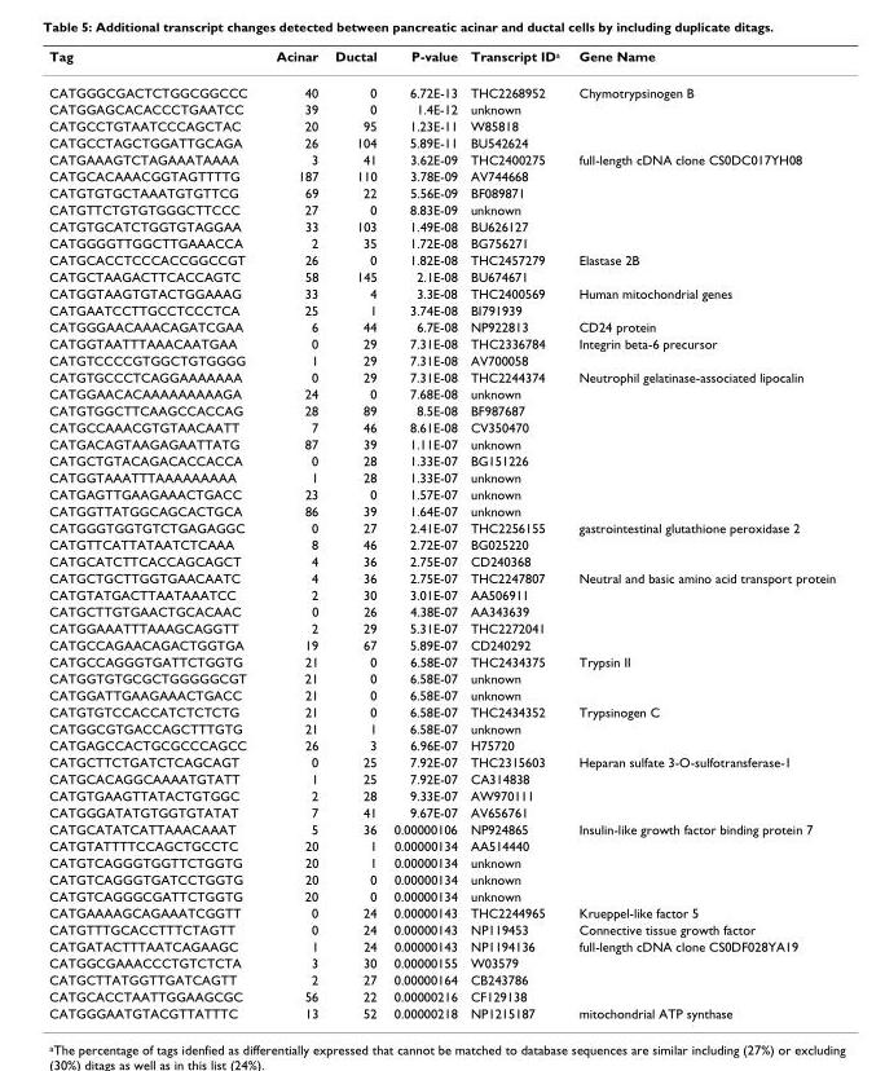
<table><thead><tr><td>Tag</td><td>Acinar</td><td>Ductal</td><td>P-value</td><td>Transcript ID<sup>a</sup></td><td>Gene Name</td></tr></thead><tbody><tr><td>CATGGGCGACTCTGGCGGCCC</td><td>40</td><td>0</td><td>6.72E-13</td><td>THC2268952</td><td>Chymotrypsinogen B</td></tr><tr><td>CATGGAGCACACCCTGAATCC</td><td>39</td><td>0</td><td>1.4E-12</td><td>unknown</td><td></td></tr><tr><td>CATGCCTGTAATCCCAGCTAC</td><td>20</td><td>95</td><td>1.23E-11</td><td>W85818</td><td></td></tr><tr><td>CATGCCTAGCTGGATTGCAGA</td><td>26</td><td>104</td><td>5.89E-11</td><td>BU542624</td><td></td></tr><tr><td>CATGAAAGTCTAGAAATAAAA</td><td>3</td><td>41</td><td>3.62E-09</td><td>THC2400275</td><td>full-length cDNA clone CS0DC017YH08</td></tr><tr><td>CATGCACAAACGGTAGTTTTG</td><td>187</td><td>110</td><td>3.78E-09</td><td>AV744668</td><td></td></tr><tr><td>CATGTGTGCTAAATGTGTTCG</td><td>69</td><td>22</td><td>5.56E-09</td><td>BF089871</td><td></td></tr><tr><td>CATGTTCTGTGTGGGCTTCCC</td><td>27</td><td>0</td><td>8.83E-09</td><td>unknown</td><td></td></tr><tr><td>CATGTGCATCTGGTGTAGGAA</td><td>33</td><td>103</td><td>1.49E-08</td><td>BU626127</td><td></td></tr><tr><td>CATGGGGTTGGCTTGAAACCA</td><td>2</td><td>35</td><td>1.72E-08</td><td>BG756271</td><td></td></tr><tr><td>CATGCACCTCCCACCGGCCGT</td><td>26</td><td>0</td><td>1.82E-08</td><td>THC2457279</td><td>Elastase 2B</td></tr><tr><td>CATGCTAAGACTTCACCAGTC</td><td>58</td><td>145</td><td>2.1E-08</td><td>BU674671</td><td></td></tr><tr><td>CATGGTAAGTGTACTGGAAAG</td><td>33</td><td>4</td><td>3.3E-08</td><td>THC2400569</td><td>Human mitochondrial genes</td></tr><tr><td>CATGAATCCTTGCCTCCCTCA</td><td>25</td><td>1</td><td>3.74E-08</td><td>BI791939</td><td></td></tr><tr><td>CATGGGAACAAACAGATCGAA</td><td>6</td><td>44</td><td>6.7E-08</td><td>NP922813</td><td>CD24 protein</td></tr><tr><td>CATGGTAATTTAAACAATGAA</td><td>0</td><td>29</td><td>7.31E-08</td><td>THC2336784</td><td>Integrin beta-6 precursor</td></tr><tr><td>CATGTCCCCGTGGCTGTGGGG</td><td>1</td><td>29</td><td>7.31E-08</td><td>AV700058</td><td></td></tr><tr><td>CATGTGCCCTCAGGAAAAAAA</td><td>0</td><td>29</td><td>7.31E-08</td><td>THC2244374</td><td>Neutrophil gelatinase-associated lipocalin</td></tr><tr><td>CATGGAACACAAAAAAAAAGA</td><td>24</td><td>0</td><td>7.68E-08</td><td>unknown</td><td></td></tr><tr><td>CATGTGGCTTCAAGCCACCAG</td><td>28</td><td>89</td><td>8.5E-08</td><td>BF987687</td><td></td></tr><tr><td>CATGCCAAACGTGTAACAATT</td><td>7</td><td>46</td><td>8.61E-08</td><td>CV350470</td><td></td></tr><tr><td>CATGACAGTAAGAGAATTATG</td><td>87</td><td>39</td><td>1.11E-07</td><td>unknown</td><td></td></tr><tr><td>CATGCTGTACAGACACCACCA</td><td>0</td><td>28</td><td>1.33E-07</td><td>BG151226</td><td></td></tr><tr><td>CATGGTAAATTTAAAAAAAAA</td><td>1</td><td>28</td><td>1.33E-07</td><td>unknown</td><td></td></tr><tr><td>CATGAGTTGAAGAAACTGACC</td><td>23</td><td>0</td><td>1.57E-07</td><td>unknown</td><td></td></tr><tr><td>CATGGTTATGGCAGCACTGCA</td><td>86</td><td>39</td><td>1.64E-07</td><td>unknown</td><td></td></tr><tr><td>CATGGGTGGTGTCTGAGAGGC</td><td>0</td><td>27</td><td>2.41E-07</td><td>THC2256155</td><td>gastrointestinal glutathione peroxidase 2</td></tr><tr><td>CATGTTCATTATAATCTCAAA</td><td>8</td><td>46</td><td>2.72E-07</td><td>BG025220</td><td></td></tr><tr><td>CATGCATCTTCACCAGCAGCT</td><td>4</td><td>36</td><td>2.75E-07</td><td>CD240368</td><td></td></tr><tr><td>CATGCTGCTTGGTGAACAATC</td><td>4</td><td>36</td><td>2.75E-07</td><td>THC2247807</td><td>Neutral and basic amino acid transport protein</td></tr><tr><td>CATGTATGACTTAATAAATCC</td><td>2</td><td>30</td><td>3.01E-07</td><td>AA506911</td><td></td></tr><tr><td>CATGCTTGTGAACTGCACAAC</td><td>0</td><td>26</td><td>4.38E-07</td><td>AA343639</td><td></td></tr><tr><td>CATGGAAATTTAAAGCAGGTT</td><td>2</td><td>29</td><td>5.31E-07</td><td>THC2272041</td><td></td></tr><tr><td>CATGCCAGAACAGACTGGTGA</td><td>19</td><td>67</td><td>5.89E-07</td><td>CD240292</td><td></td></tr><tr><td>CATGCCAGGGTGATTCTGGTG</td><td>21</td><td>0</td><td>6.58E-07</td><td>THC2434375</td><td>Trypsin II</td></tr><tr><td>CATGGTGTGCGCTGGGGGCGT</td><td>21</td><td>0</td><td>6.58E-07</td><td>unknown</td><td></td></tr><tr><td>CATGGATTGAAGAAACTGACC</td><td>21</td><td>0</td><td>6.58E-07</td><td>unknown</td><td></td></tr><tr><td>CATGTGTCCACCATCTCTCTG</td><td>21</td><td>0</td><td>6.58E-07</td><td>THC2434352</td><td>Trypsinogen C</td></tr><tr><td>CATGGCGTGACCAGCTTTGTG</td><td>21</td><td>1</td><td>6.58E-07</td><td>unknown</td><td></td></tr><tr><td>CATGAGCCACTGCGCCCAGCC</td><td>26</td><td>3</td><td>6.96E-07</td><td>H75720</td><td></td></tr><tr><td>CATGCTTCTGATCTCAGCAGT</td><td>0</td><td>25</td><td>7.92E-07</td><td>THC2315603</td><td>Heparan sulfate 3-O-sulfotransferase-1</td></tr><tr><td>CATGCACAGGCAAAATGTATT</td><td>1</td><td>25</td><td>7.92E-07</td><td>CA314838</td><td></td></tr><tr><td>CATGTGAAGTTATACTGTGGC</td><td>2</td><td>28</td><td>9.33E-07</td><td>AW970111</td><td></td></tr><tr><td>CATGGGATATGTGGTGTATAT</td><td>7</td><td>41</td><td>9.67E-07</td><td>AV656761</td><td></td></tr><tr><td>CATGCATATCATTAAACAAAT</td><td>5</td><td>36</td><td>0.00000106</td><td>NP924865</td><td>Insulin-like growth factor binding protein 7</td></tr><tr><td>CATGTATTTTCCAGCTGCCTC</td><td>20</td><td>1</td><td>0.00000134</td><td>AA514440</td><td></td></tr><tr><td>CATGTCAGGGTGGTTCTGGTG</td><td>20</td><td>1</td><td>0.00000134</td><td>unknown</td><td></td></tr><tr><td>CATGTCAGGGTGATCCTGGTG</td><td>20</td><td>0</td><td>0.00000134</td><td>unknown</td><td></td></tr><tr><td>CATGTCAGGGCGATTCTGGTG</td><td>20</td><td>0</td><td>0.00000134</td><td>unknown</td><td></td></tr><tr><td>CATGAAAAGCAGAAATCGGTT</td><td>0</td><td>24</td><td>0.00000143</td><td>THC2244965</td><td>Krueppel-like factor 5</td></tr><tr><td>CATGTTTGCACCTTTCTAGTT</td><td>0</td><td>24</td><td>0.00000143</td><td>NP119453</td><td>Connective tissue growth factor</td></tr><tr><td>CATGATACTTTAATCAGAAGC</td><td>1</td><td>24</td><td>0.00000143</td><td>NP1194136</td><td>full-length cDNA clone CS0DF028YA19</td></tr><tr><td>CATGGCGAAACCCTGTCTCTA</td><td>3</td><td>30</td><td>0.00000155</td><td>W03579</td><td></td></tr><tr><td>CATGCTTATGGTTGATCAGTT</td><td>2</td><td>27</td><td>0.00000164</td><td>CB243786</td><td></td></tr><tr><td>CATGCACCTAATTGGAAGCGC</td><td>56</td><td>22</td><td>0.00000216</td><td>CF129138</td><td></td></tr><tr><td>CATGGGAATGTACGTTATTTC</td><td>13</td><td>52</td><td>0.00000218</td><td>NP1215187</td><td>mitochondrial ATP synthase</td></tr></tbody></table>